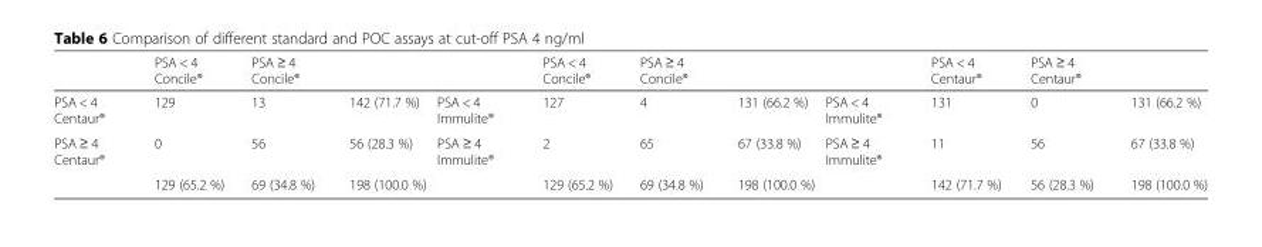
<table><thead><tr><td></td><td>PSA &lt; 4 Concile®</td><td>PSA ≥ 4 Concile®</td><td></td><td></td><td>PSA &lt; 4 Concile®</td><td>PSA ≥ 4 Concile®</td><td></td><td></td><td>PSA &lt; 4 Centaur®</td><td>PSA ≥ 4 Centaur®</td><td></td></tr></thead><tbody><tr><td>PSA &lt; 4 Centaur®</td><td>129</td><td>13</td><td>142 (71.7 %)</td><td>PSA &lt; 4 Immulite®</td><td>127</td><td>4</td><td>131 (66.2 %)</td><td>PSA &lt; 4 Immulite®</td><td>131</td><td>0</td><td>131 (66.2 %)</td></tr><tr><td rowspan="2">PSA ≥ 4 Centaur®</td><td>0</td><td>56</td><td>56 (28.3 %)</td><td>PSA ≥ 4 Immulite®</td><td>2</td><td>65</td><td>67 (33.8 %)</td><td>PSA ≥ 4 Immulite®</td><td>11</td><td>56</td><td>67 (33.8 %)</td></tr><tr><td>129 (65.2 %)</td><td>69 (34.8 %)</td><td>198 (100.0 %)</td><td></td><td>129 (65.2 %)</td><td>69 (34.8 %)</td><td>198 (100.0 %)</td><td></td><td>142 (71.7 %)</td><td>56 (28.3 %)</td><td>198 (100.0 %)</td></tr></tbody></table>